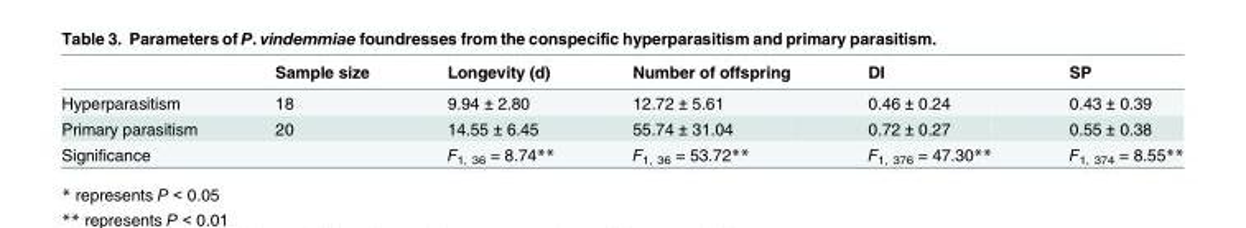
<table><thead><tr><td></td><td>Sample size</td><td>Longevity (d)</td><td>Number of offspring</td><td>DI</td><td>SP</td></tr></thead><tbody><tr><td>Hyperparasitism</td><td>18</td><td>9.94 ± 2.80</td><td>12.72 ± 5.61</td><td>0.46 ± 0.24</td><td>0.43 ± 0.39</td></tr><tr><td>Primary parasitism</td><td>20</td><td>14.55 ± 6.45</td><td>55.74 ± 31.04</td><td>0.72 ± 0.27</td><td>0.55 ± 0.38</td></tr><tr><td>Significance</td><td></td><td>F<sub>1, 36</sub> = 8.74**</td><td>F<sub>1, 36</sub> = 53.72**</td><td>F<sub>1, 376</sub> = 47.30**</td><td>F<sub>1, 374</sub> = 8.55**</td></tr></tbody></table>